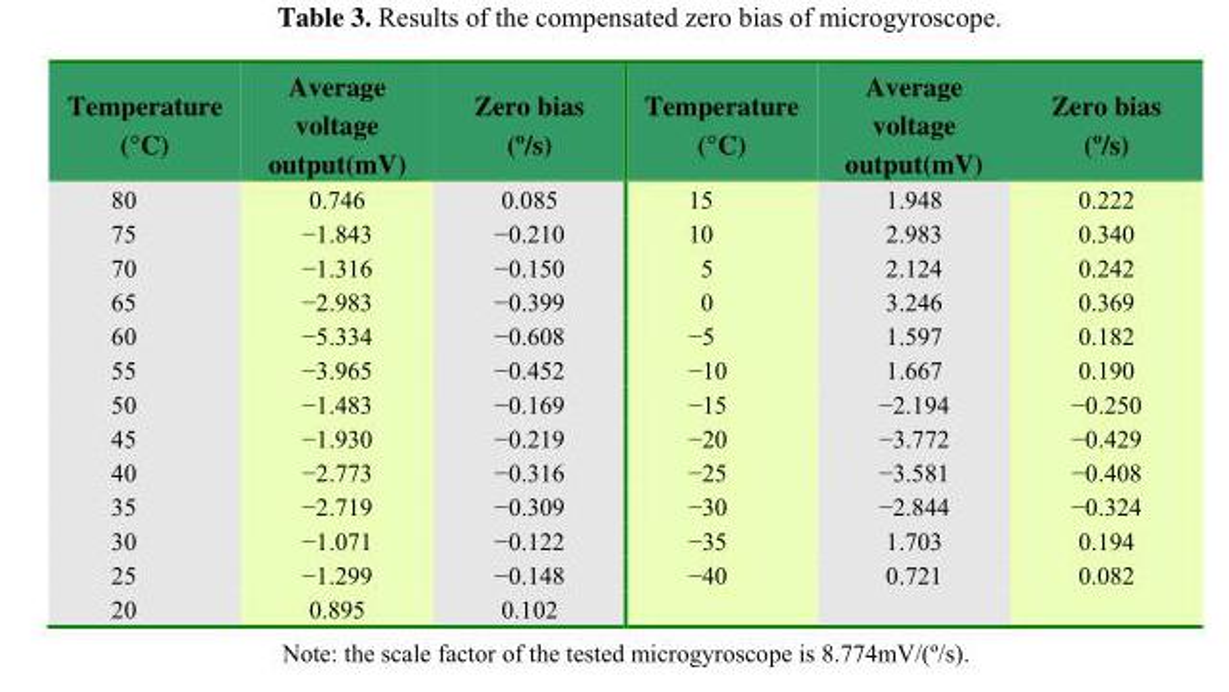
<table><thead><tr><td>Temperature (°C)</td><td>Average voltage output(mV)</td><td>Zero bias (º/s)</td><td>Temperature (°C)</td><td>Average voltage output(mV)</td><td>Zero bias (º/s)</td></tr></thead><tbody><tr><td>80</td><td>0.746</td><td>0.085</td><td>15</td><td>1.948</td><td>0.222</td></tr><tr><td>75</td><td>−1.843</td><td>−0.210</td><td>10</td><td>2.983</td><td>0.340</td></tr><tr><td>70</td><td>−1.316</td><td>−0.150</td><td>5</td><td>2.124</td><td>0.242</td></tr><tr><td>65</td><td>−2.983</td><td>−0.399</td><td>0</td><td>3.246</td><td>0.369</td></tr><tr><td>60</td><td>−5.334</td><td>−0.608</td><td>−5</td><td>1.597</td><td>0.182</td></tr><tr><td>55</td><td>−3.965</td><td>−0.452</td><td>−10</td><td>1.667</td><td>0.190</td></tr><tr><td>50</td><td>−1.483</td><td>−0.169</td><td>−15</td><td>−2.194</td><td>−0.250</td></tr><tr><td>45</td><td>−1.930</td><td>−0.219</td><td>−20</td><td>−3.772</td><td>−0.429</td></tr><tr><td>40</td><td>−2.773</td><td>−0.316</td><td>−25</td><td>−3.581</td><td>−0.408</td></tr><tr><td>35</td><td>−2.719</td><td>−0.309</td><td>−30</td><td>−2.844</td><td>−0.324</td></tr><tr><td>30</td><td>−1.071</td><td>−0.122</td><td>−35</td><td>1.703</td><td>0.194</td></tr><tr><td>25</td><td>−1.299</td><td>−0.148</td><td>−40</td><td>0.721</td><td>0.082</td></tr><tr><td>20</td><td>0.895</td><td>0.102</td><td></td><td></td><td></td></tr></tbody></table>